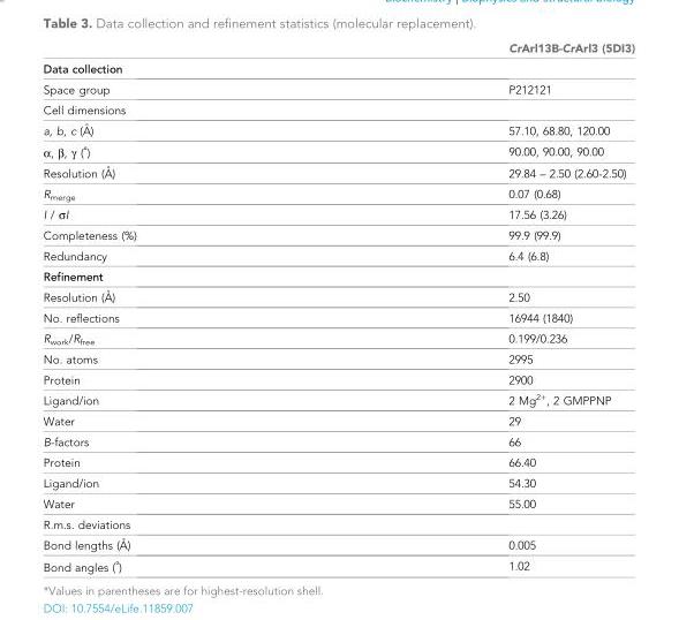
<table><thead><tr><td></td><td>CrArl13B-CrArl3 (5DI3)</td></tr></thead><tbody><tr><td colspan="2">Data collection</td></tr><tr><td>Space group</td><td>P212121</td></tr><tr><td colspan="2">Cell dimensions</td></tr><tr><td>a, b, c (A˚ )</td><td>57.10, 68.80, 120.00</td></tr><tr><td>α, β, γ (˚)</td><td>90.00, 90.00, 90.00</td></tr><tr><td>Resolution (A˚ )</td><td>29.84 – 2.50 (2.60-2.50)</td></tr><tr><td>R<sub>merge</sub></td><td>0.07 (0.68)</td></tr><tr><td>I / σI</td><td>17.56 (3.26)</td></tr><tr><td>Completeness (%)</td><td>99.9 (99.9)</td></tr><tr><td>Redundancy</td><td>6.4 (6.8)</td></tr><tr><td colspan="2">Refinement</td></tr><tr><td>Resolution (A˚ )</td><td>2.50</td></tr><tr><td>No. reflections</td><td>16944 (1840)</td></tr><tr><td>R<sub>work</sub>/R<sub>free</sub></td><td>0.199/0.236</td></tr><tr><td>No. atoms</td><td>2995</td></tr><tr><td>Protein</td><td>2900</td></tr><tr><td>Ligand/ion</td><td>2 Mg<sup>2+</sup>, 2 GMPPNP</td></tr><tr><td>Water</td><td>29</td></tr><tr><td>B-factors</td><td>66</td></tr><tr><td>Protein</td><td>66.40</td></tr><tr><td>Ligand/ion</td><td>54.30</td></tr><tr><td>Water</td><td>55.00</td></tr><tr><td colspan="2">R.m.s. deviations</td></tr><tr><td>Bond lengths (A˚ )</td><td>0.005</td></tr><tr><td>Bond angles (˚)</td><td>1.02</td></tr></tbody></table>